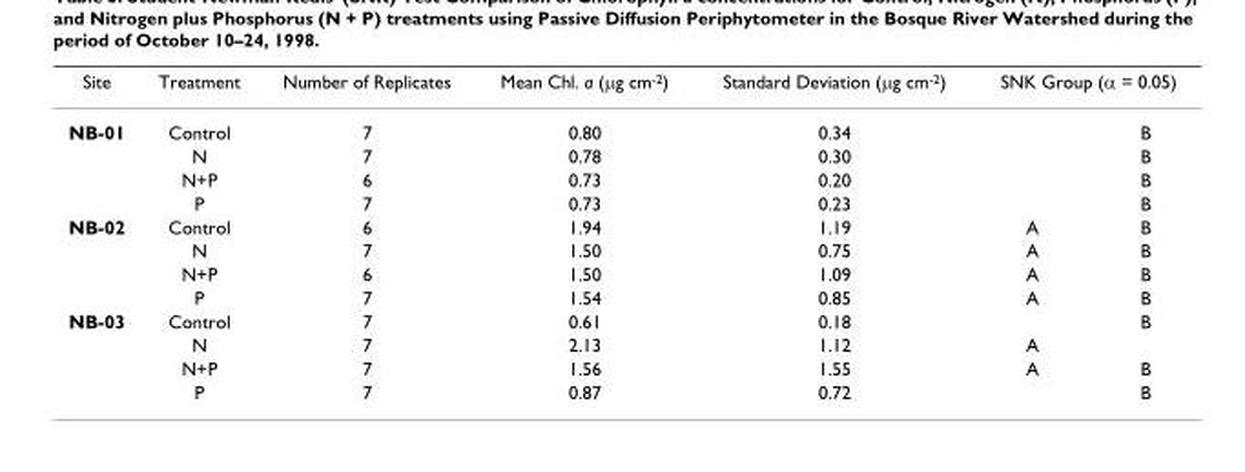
<table><thead><tr><td rowspan="2">Site NB-01</td><td rowspan="2">Treatment Control</td><td rowspan="2">Number of Replicates 7</td><td rowspan="2">Mean Chl. a (μg cm<sup>-2</sup>) 0.80</td><td rowspan="2">Standard Deviation (μg cm<sup>-2</sup>) 0.34</td><td colspan="2">SNK Group (α = 0.05)</td></tr><tr><td></td><td>B</td></tr></thead><tbody><tr><td></td><td>N</td><td>7</td><td>0.78</td><td>0.30</td><td></td><td>B</td></tr><tr><td></td><td>N+P</td><td>6</td><td>0.73</td><td>0.20</td><td></td><td>B</td></tr><tr><td></td><td>P</td><td>7</td><td>0.73</td><td>0.23</td><td></td><td>B</td></tr><tr><td rowspan="4">NB-02</td><td>Control</td><td>6</td><td>1.94</td><td>1.19</td><td>A</td><td>B</td></tr><tr><td>N</td><td>7</td><td>1.50</td><td>0.75</td><td>A</td><td>B</td></tr><tr><td>N+P</td><td>6</td><td>1.50</td><td>1.09</td><td>A</td><td>B</td></tr><tr><td>P</td><td>7</td><td>1.54</td><td>0.85</td><td>A</td><td>B</td></tr><tr><td rowspan="4">NB-03</td><td>Control</td><td>7</td><td>0.61</td><td>0.18</td><td></td><td>B</td></tr><tr><td>N</td><td>7</td><td>2.13</td><td>1.12</td><td>A</td><td></td></tr><tr><td>N+P</td><td>7</td><td>1.56</td><td>1.55</td><td>A</td><td>B</td></tr><tr><td>P</td><td>7</td><td>0.87</td><td>0.72</td><td></td><td>B</td></tr></tbody></table>